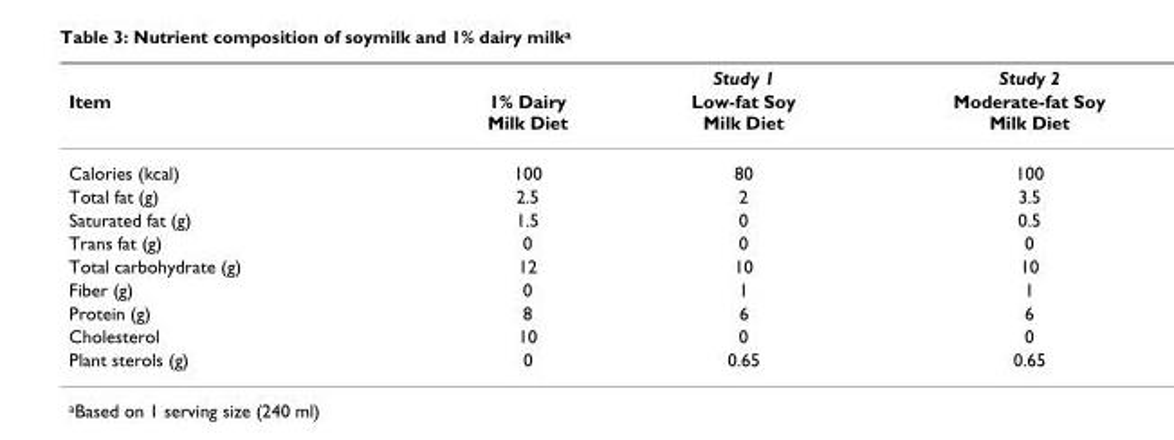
<table><thead><tr><td rowspan="2">Item</td><td rowspan="2">1% Dairy Milk Diet</td><td rowspan="2">Study 1 Low-fat Soy Milk Diet</td><td rowspan="2">Study 2 Moderate-fat Soy Milk Diet</td></tr><tr></tr></thead><tbody><tr><td>Calories (kcal)</td><td>100</td><td>80</td><td>100</td></tr><tr><td>Total fat (g)</td><td>2.5</td><td>2</td><td>3.5</td></tr><tr><td>Saturated fat (g)</td><td>1.5</td><td>0</td><td>0.5</td></tr><tr><td>Trans fat (g)</td><td>0</td><td>0</td><td>0</td></tr><tr><td>Total carbohydrate (g)</td><td>12</td><td>10</td><td>10</td></tr><tr><td>Fiber (g)</td><td>0</td><td>1</td><td>1</td></tr><tr><td>Protein (g)</td><td>8</td><td>6</td><td>6</td></tr><tr><td>Cholesterol</td><td>10</td><td>0</td><td>0</td></tr><tr><td>Plant sterols (g)</td><td>0</td><td>0.65</td><td>0.65</td></tr></tbody></table>